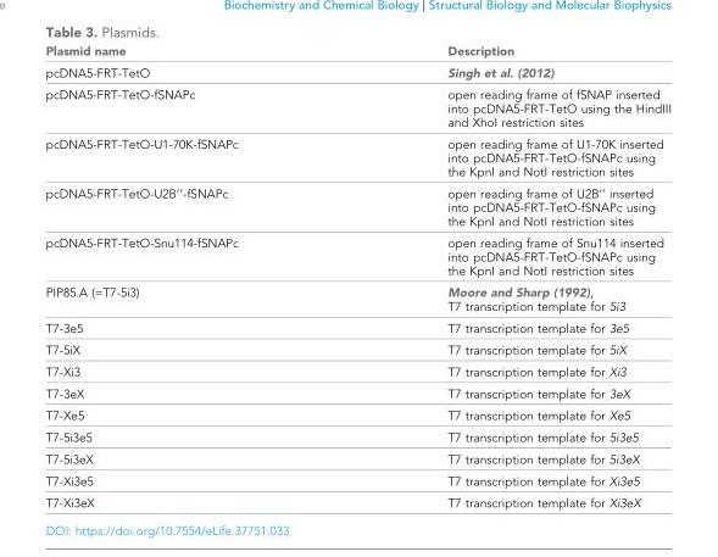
<table><thead><tr><td>Plasmid name</td><td>Description</td></tr></thead><tbody><tr><td>pcDNA5-FRT-TetO</td><td>Singh et al. (2012)</td></tr><tr><td>pcDNA5-FRT-TetO-fSNAPc</td><td>open reading frame of fSNAP inserted into pcDNA5-FRT-TetO using the HindIII and XhoI restriction sites</td></tr><tr><td>pcDNA5-FRT-TetO-U1-70K-fSNAPc</td><td>open reading frame of U1-70K inserted into pcDNA5-FRT-TetO-fSNAPc using the KpnI and NotI restriction sites</td></tr><tr><td>pcDNA5-FRT-TetO-U2B’’-fSNAPc</td><td>open reading frame of U2B’’ inserted into pcDNA5-FRT-TetO-fSNAPc using the KpnI and NotI restriction sites</td></tr><tr><td>pcDNA5-FRT-TetO-Snu114-fSNAPc</td><td>open reading frame of Snu114 inserted into pcDNA5-FRT-TetO-fSNAPc using the KpnI and NotI restriction sites</td></tr><tr><td>PIP85.A (=T7-5i3)</td><td>Moore and Sharp (1992), T7 transcription template for 5i3</td></tr><tr><td>T7-3e5</td><td>T7 transcription template for 3e5</td></tr><tr><td>T7-5iX</td><td>T7 transcription template for 5iX</td></tr><tr><td>T7-Xi3</td><td>T7 transcription template for Xi3</td></tr><tr><td>T7-3eX</td><td>T7 transcription template for 3eX</td></tr><tr><td>T7-Xe5</td><td>T7 transcription template for Xe5</td></tr><tr><td>T7-5i3e5</td><td>T7 transcription template for 5i3e5</td></tr><tr><td>T7-5i3eX</td><td>T7 transcription template for 5i3eX</td></tr><tr><td>T7-Xi3e5</td><td>T7 transcription template for Xi3e5</td></tr><tr><td>T7-Xi3eX</td><td>T7 transcription template for Xi3eX</td></tr></tbody></table>